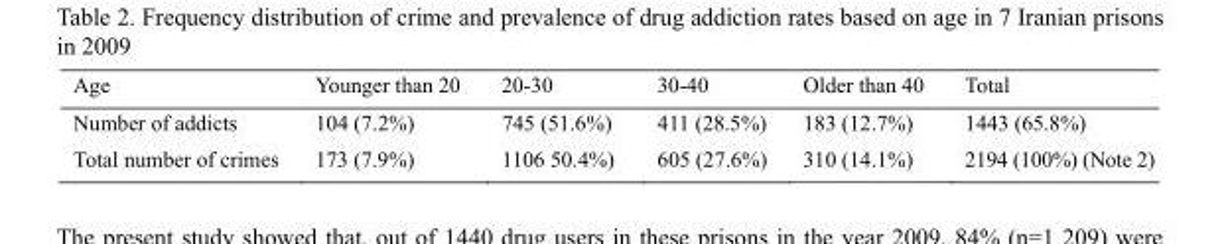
<table><thead><tr><td>Age</td><td>Younger than 20</td><td>20-30</td><td>30-40</td><td>Older than 40</td><td>Total</td></tr></thead><tbody><tr><td>Number of addicts</td><td>104 (7.2%)</td><td>745 (51.6%)</td><td>411 (28.5%)</td><td>183 (12.7%)</td><td>1443 (65.8%)</td></tr><tr><td>Total number of crimes</td><td>173 (7.9%)</td><td>1106 50.4%)</td><td>605 (27.6%)</td><td>310 (14.1%)</td><td>2194 (100%) (Note 2)</td></tr></tbody></table>